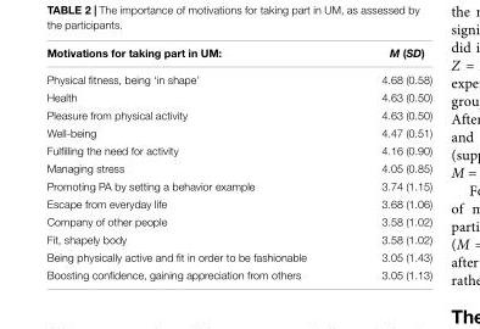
<table><thead><tr><td>Motivations for taking part in UM:</td><td>M (SD)</td></tr></thead><tbody><tr><td>Physical fitness, being ‘in shape’</td><td>4.68 (0.58)</td></tr><tr><td>Health</td><td>4.63 (0.50)</td></tr><tr><td>Pleasure from physical activity</td><td>4.63 (0.50)</td></tr><tr><td>Well-being</td><td>4.47 (0.51)</td></tr><tr><td>Fulfilling the need for activity</td><td>4.16 (0.90)</td></tr><tr><td>Managing stress</td><td>4.05 (0.85)</td></tr><tr><td>Promoting PA by setting a behavior example</td><td>3.74 (1.15)</td></tr><tr><td>Escape from everyday life</td><td>3.68 (1.06)</td></tr><tr><td>Company of other people</td><td>3.58 (1.02)</td></tr><tr><td>Fit, shapely body</td><td>3.58 (1.02)</td></tr><tr><td>Being physically active and fit in order to be fashionable</td><td>3.05 (1.43)</td></tr><tr><td>Boosting confidence, gaining appreciation from others</td><td>3.05 (1.13)</td></tr></tbody></table>